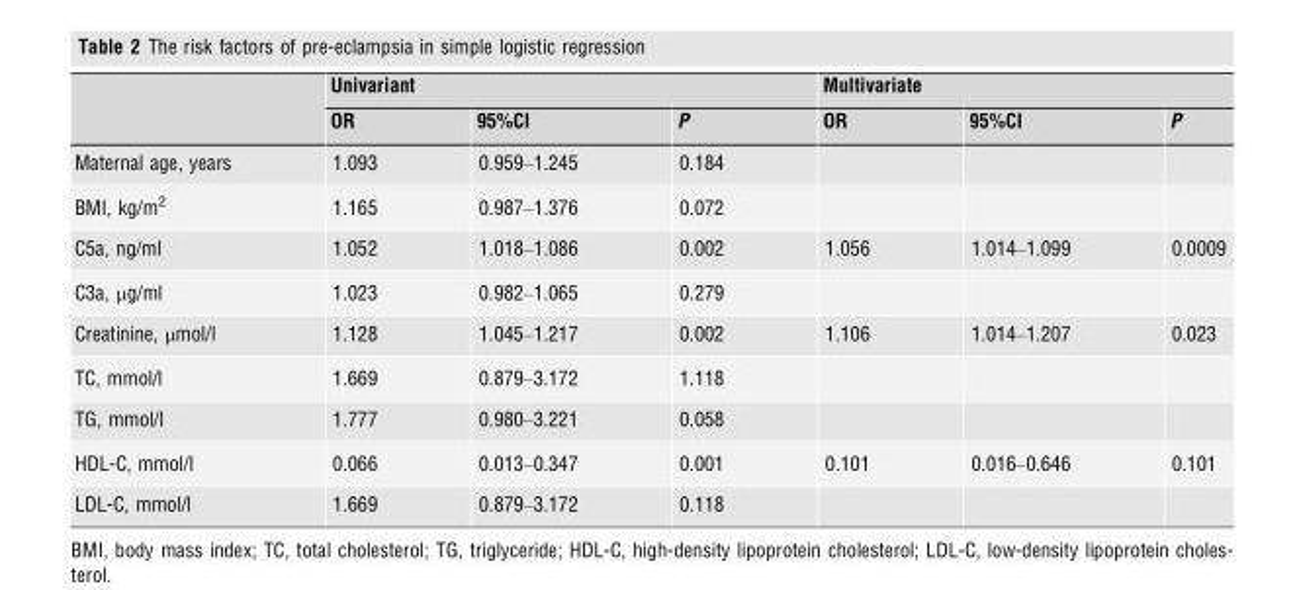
<table><thead><tr><td rowspan="2"></td><td colspan="3">Univariant</td><td colspan="3">Multivariate</td></tr><tr><td>OR</td><td>95%CI</td><td>P</td><td>OR</td><td>95%CI</td><td>P</td></tr></thead><tbody><tr><td>Maternal age, years</td><td>1.093</td><td>0.959–1.245</td><td>0.184</td><td></td><td></td><td></td></tr><tr><td>BMI, kg/m<sup>2</sup></td><td>1.165</td><td>0.987–1.376</td><td>0.072</td><td></td><td></td><td></td></tr><tr><td>C5a, ng/ml</td><td>1.052</td><td>1.018–1.086</td><td>0.002</td><td>1.056</td><td>1.014–1.099</td><td>0.0009</td></tr><tr><td>C3a, μg/ml</td><td>1.023</td><td>0.982–1.065</td><td>0.279</td><td></td><td></td><td></td></tr><tr><td>Creatinine, μmol/l</td><td>1.128</td><td>1.045–1.217</td><td>0.002</td><td>1.106</td><td>1.014–1.207</td><td>0.023</td></tr><tr><td>TC, mmol/l</td><td>1.669</td><td>0.879–3.172</td><td>1.118</td><td></td><td></td><td></td></tr><tr><td>TG, mmol/l</td><td>1.777</td><td>0.980–3.221</td><td>0.058</td><td></td><td></td><td></td></tr><tr><td>HDL-C, mmol/l</td><td>0.066</td><td>0.013–0.347</td><td>0.001</td><td>0.101</td><td>0.016–0.646</td><td>0.101</td></tr><tr><td>LDL-C, mmol/l</td><td>1.669</td><td>0.879–3.172</td><td>0.118</td><td></td><td></td><td></td></tr></tbody></table>